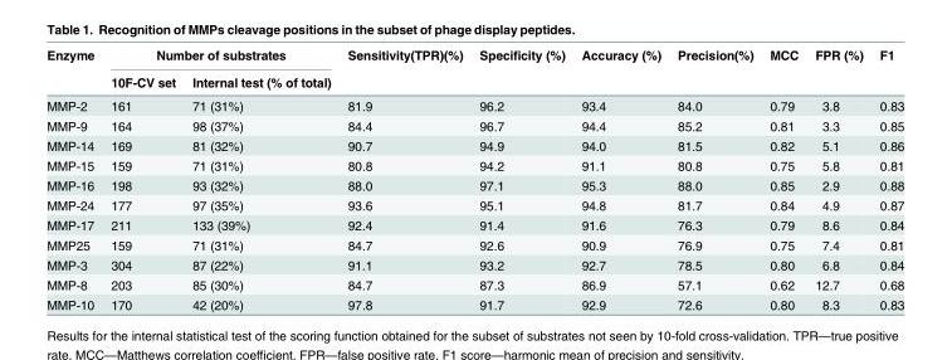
<table><thead><tr><td rowspan="2">Enzyme</td><td colspan="2">Number of substrates</td><td rowspan="2">Sensitivity(TPR)(%)</td><td rowspan="2">Specificity (%)</td><td rowspan="2">Accuracy (%)</td><td rowspan="2">Precision(%)</td><td rowspan="2">MCC</td><td rowspan="2">FPR (%)</td><td rowspan="2">F1</td></tr><tr><td>10F-CV set</td><td>Internal test (% of total)</td></tr></thead><tbody><tr><td>MMP-2</td><td>161</td><td>71 (31%)</td><td>81.9</td><td>96.2</td><td>93.4</td><td>84.0</td><td>0.79</td><td>3.8</td><td>0.83</td></tr><tr><td>MMP-9</td><td>164</td><td>98 (37%)</td><td>84.4</td><td>96.7</td><td>94.4</td><td>85.2</td><td>0.81</td><td>3.3</td><td>0.85</td></tr><tr><td>MMP-14</td><td>169</td><td>81 (32%)</td><td>90.7</td><td>94.9</td><td>94.0</td><td>81.5</td><td>0.82</td><td>5.1</td><td>0.86</td></tr><tr><td>MMP-15</td><td>159</td><td>71 (31%)</td><td>80.8</td><td>94.2</td><td>91.1</td><td>80.8</td><td>0.75</td><td>5.8</td><td>0.81</td></tr><tr><td>MMP-16</td><td>198</td><td>93 (32%)</td><td>88.0</td><td>97.1</td><td>95.3</td><td>88.0</td><td>0.85</td><td>2.9</td><td>0.88</td></tr><tr><td>MMP-24</td><td>177</td><td>97 (35%)</td><td>93.6</td><td>95.1</td><td>94.8</td><td>81.7</td><td>0.84</td><td>4.9</td><td>0.87</td></tr><tr><td>MMP-17</td><td>211</td><td>133 (39%)</td><td>92.4</td><td>91.4</td><td>91.6</td><td>76.3</td><td>0.79</td><td>8.6</td><td>0.84</td></tr><tr><td>MMP25</td><td>159</td><td>71 (31%)</td><td>84.7</td><td>92.6</td><td>90.9</td><td>76.9</td><td>0.75</td><td>7.4</td><td>0.81</td></tr><tr><td>MMP-3</td><td>304</td><td>87 (22%)</td><td>91.1</td><td>93.2</td><td>92.7</td><td>78.5</td><td>0.80</td><td>6.8</td><td>0.84</td></tr><tr><td>MMP-8</td><td>203</td><td>85 (30%)</td><td>84.7</td><td>87.3</td><td>86.9</td><td>57.1</td><td>0.62</td><td>12.7</td><td>0.68</td></tr><tr><td>MMP-10</td><td>170</td><td>42 (20%)</td><td>97.8</td><td>91.7</td><td>92.9</td><td>72.6</td><td>0.80</td><td>8.3</td><td>0.83</td></tr></tbody></table>